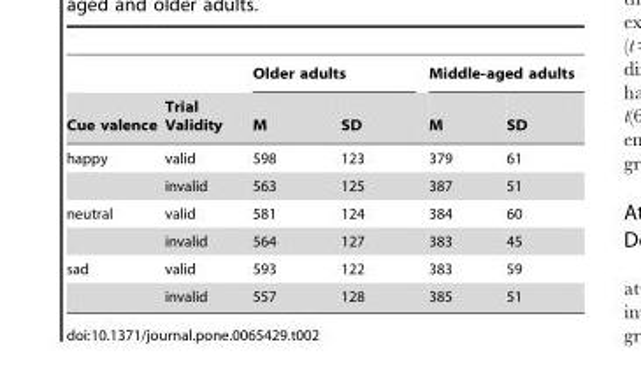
<table><thead><tr><td rowspan="2">Cue valence</td><td rowspan="2">Trial Validity</td><td colspan="2">Older adults</td><td colspan="2">Middle-aged adults</td></tr><tr><td>M</td><td>SD</td><td>M</td><td>SD</td></tr></thead><tbody><tr><td rowspan="2">happy</td><td>valid</td><td>598</td><td>123</td><td>379</td><td>61</td></tr><tr><td>invalid</td><td>563</td><td>125</td><td>387</td><td>51</td></tr><tr><td rowspan="2">neutral</td><td>valid</td><td>581</td><td>124</td><td>384</td><td>60</td></tr><tr><td>invalid</td><td>564</td><td>127</td><td>383</td><td>45</td></tr><tr><td rowspan="2">sad</td><td>valid</td><td>593</td><td>122</td><td>383</td><td>59</td></tr><tr><td>invalid</td><td>557</td><td>128</td><td>385</td><td>51</td></tr></tbody></table>